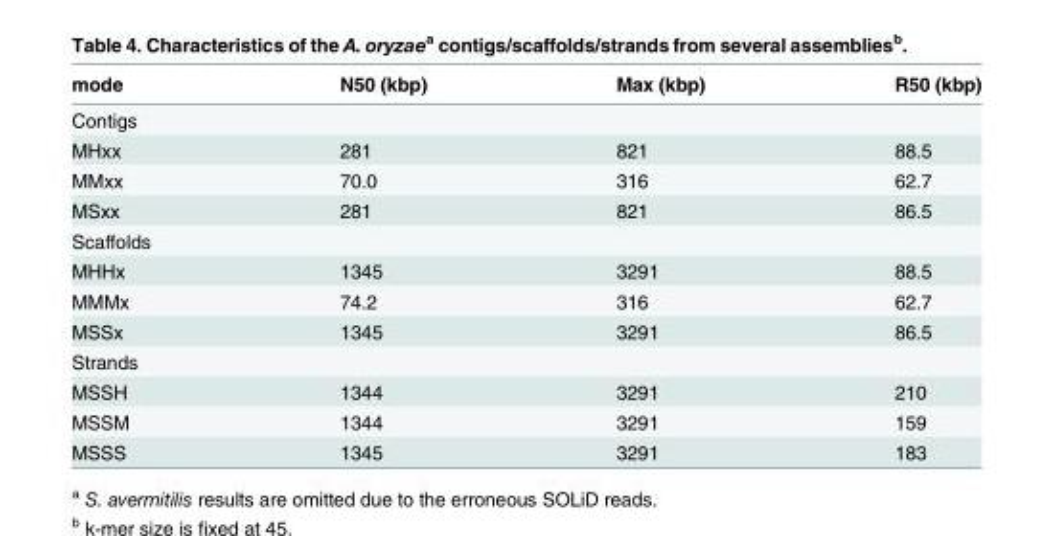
<table><thead><tr><td>mode</td><td>N50 (kbp)</td><td>Max (kbp)</td><td>R50 (kbp)</td></tr></thead><tbody><tr><td colspan="4">Contigs</td></tr><tr><td>MHxx</td><td>281</td><td>821</td><td>88.5</td></tr><tr><td>MMxx</td><td>70.0</td><td>316</td><td>62.7</td></tr><tr><td>MSxx</td><td>281</td><td>821</td><td>86.5</td></tr><tr><td colspan="4">Scaffolds</td></tr><tr><td>MHHx</td><td>1345</td><td>3291</td><td>88.5</td></tr><tr><td>MMMx</td><td>74.2</td><td>316</td><td>62.7</td></tr><tr><td>MSSx</td><td>1345</td><td>3291</td><td>86.5</td></tr><tr><td colspan="4">Strands</td></tr><tr><td>MSSH</td><td>1344</td><td>3291</td><td>210</td></tr><tr><td>MSSM</td><td>1344</td><td>3291</td><td>159</td></tr><tr><td>MSSS</td><td>1345</td><td>3291</td><td>183</td></tr></tbody></table>